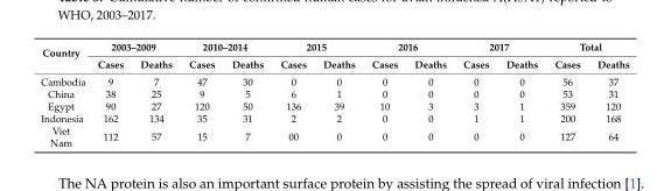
<table><thead><tr><td rowspan="2">Country</td><td colspan="2">2003–2009</td><td colspan="2">2010–2014</td><td colspan="2">2015</td><td colspan="2">2016</td><td colspan="2">2017</td><td colspan="2">Total</td></tr><tr><td>Cases</td><td>Deaths</td><td>Cases</td><td>Deaths</td><td>Cases</td><td>Deaths</td><td>Cases</td><td>Deaths</td><td>Cases</td><td>Deaths</td><td>Cases</td><td>Deaths</td></tr></thead><tbody><tr><td>Cambodia</td><td>9</td><td>7</td><td>47</td><td>30</td><td>0</td><td>0</td><td>0</td><td>0</td><td>0</td><td>0</td><td>56</td><td>37</td></tr><tr><td>China</td><td>38</td><td>25</td><td>9</td><td>5</td><td>6</td><td>1</td><td>0</td><td>0</td><td>0</td><td>0</td><td>53</td><td>31</td></tr><tr><td>Egypt</td><td>90</td><td>27</td><td>120</td><td>50</td><td>136</td><td>39</td><td>10</td><td>3</td><td>3</td><td>1</td><td>359</td><td>120</td></tr><tr><td>Indonesia</td><td>162</td><td>134</td><td>35</td><td>31</td><td>2</td><td>2</td><td>0</td><td>0</td><td>1</td><td>1</td><td>200</td><td>168</td></tr><tr><td>Viet Nam</td><td>112</td><td>57</td><td>15</td><td>7</td><td>00</td><td>0</td><td>0</td><td>0</td><td>0</td><td>0</td><td>127</td><td>64</td></tr></tbody></table>